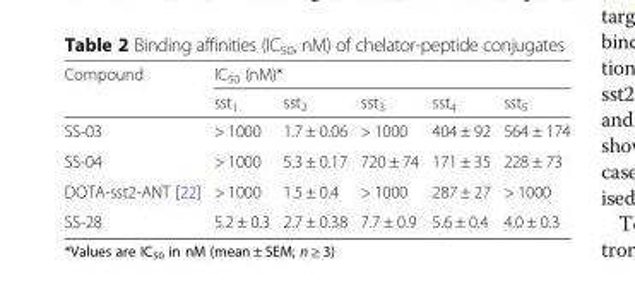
<table><thead><tr><td rowspan="2">Compound</td><td colspan="5">IC<sub>50</sub> (nM)*</td></tr><tr><td>sst<sub>1</sub></td><td>sst<sub>2</sub></td><td>sst<sub>3</sub></td><td>sst<sub>4</sub></td><td>sst<sub>5</sub></td></tr></thead><tbody><tr><td>SS-03</td><td>&gt; 1000</td><td>1.7 ± 0.06</td><td>&gt; 1000</td><td>404 ± 92</td><td>564 ± 174</td></tr><tr><td>SS-04</td><td>&gt; 1000</td><td>5.3 ± 0.17</td><td>720 ± 74</td><td>171 ± 35</td><td>228 ± 73</td></tr><tr><td>DOTA-sst2-ANT [22]</td><td>&gt; 1000</td><td>1.5 ± 0.4</td><td>&gt; 1000</td><td>287 ± 27</td><td>&gt; 1000</td></tr><tr><td>SS-28</td><td>5.2 ± 0.3</td><td>2.7 ± 0.38</td><td>7.7 ± 0.9</td><td>5.6 ± 0.4</td><td>4.0 ± 0.3</td></tr></tbody></table>